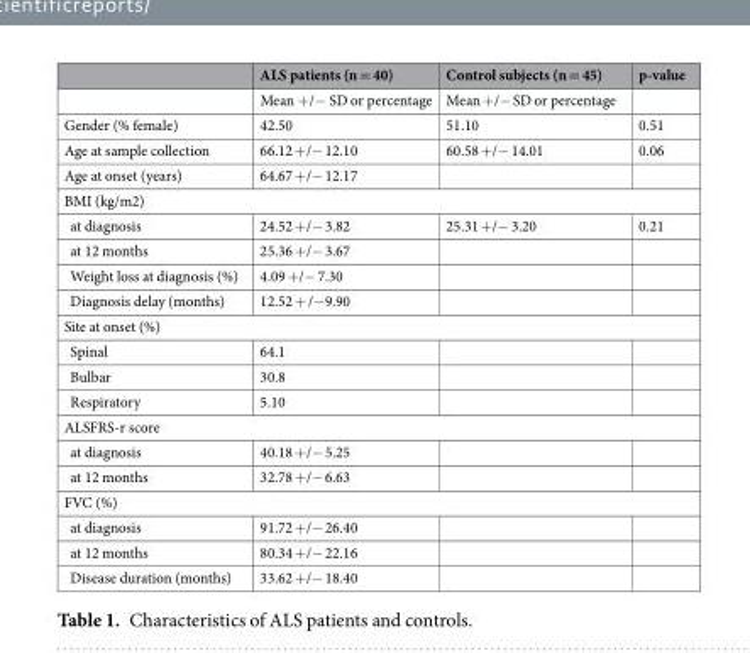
<table><thead><tr><td></td><td>ALS patients (n = 40)</td><td>Control subjects (n = 45)</td><td>p-value</td></tr></thead><tbody><tr><td></td><td>Mean +/− SD or percentage</td><td>Mean +/− SD or percentage</td><td></td></tr><tr><td>Gender (% female)</td><td>42.50</td><td>51.10</td><td>0.51</td></tr><tr><td>Age at sample collection</td><td>66.12 +/− 12.10</td><td>60.58 +/− 14.01</td><td>0.06</td></tr><tr><td>Age at onset (years)</td><td>64.67 +/− 12.17</td><td></td><td></td></tr><tr><td colspan="4">BMI (kg/m2)</td></tr><tr><td>at diagnosis</td><td>24.52 +/− 3.82</td><td>25.31 +/− 3.20</td><td>0.21</td></tr><tr><td>at 12 months</td><td>25.36 +/− 3.67</td><td></td><td></td></tr><tr><td>Weight loss at diagnosis (%)</td><td>4.09 +/− 7.30</td><td></td><td></td></tr><tr><td>Diagnosis delay (months)</td><td>12.52 + /−9.90</td><td></td><td></td></tr><tr><td colspan="4">Site at onset (%)</td></tr><tr><td>Spinal</td><td>64.1</td><td></td><td></td></tr><tr><td>Bulbar</td><td>30.8</td><td></td><td></td></tr><tr><td>Respiratory</td><td>5.10</td><td></td><td></td></tr><tr><td colspan="4">ALSFRS-r score</td></tr><tr><td>at diagnosis</td><td>40.18 +/− 5.25</td><td></td><td></td></tr><tr><td>at 12 months</td><td>32.78 +/− 6.63</td><td></td><td></td></tr><tr><td colspan="4">FVC (%)</td></tr><tr><td>at diagnosis</td><td>91.72 +/− 26.40</td><td></td><td></td></tr><tr><td>at 12 months</td><td>80.34 +/− 22.16</td><td></td><td></td></tr><tr><td>Disease duration (months)</td><td>33.62 +/− 18.40</td><td></td><td></td></tr></tbody></table>